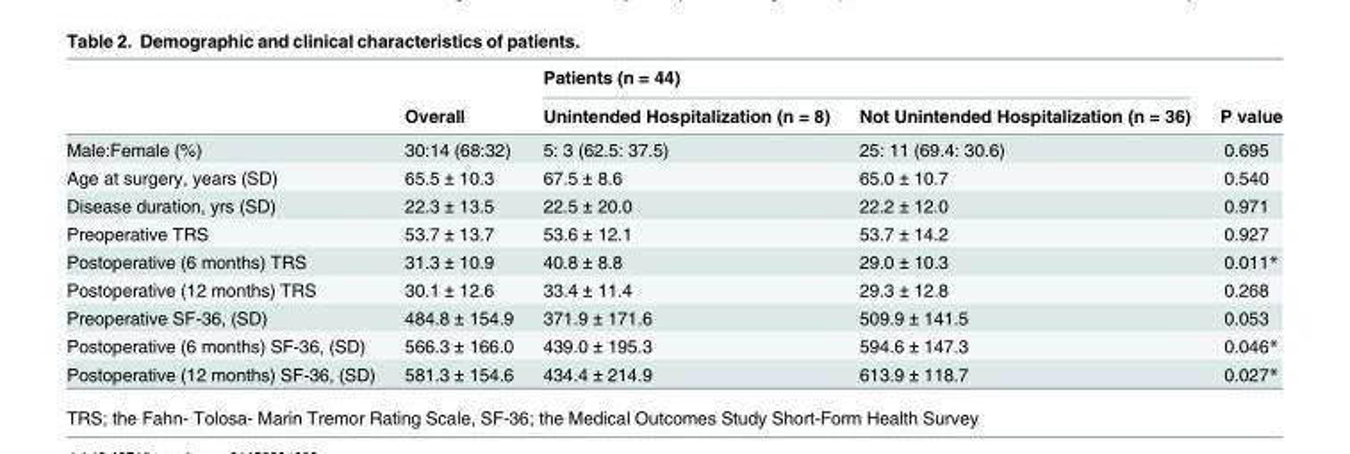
<table><thead><tr><td rowspan="2"></td><td rowspan="2">Overall</td><td colspan="2">Patients (n = 44)</td><td rowspan="2">P value</td></tr><tr><td>Unintended Hospitalization (n = 8)</td><td>Not Unintended Hospitalization (n = 36)</td></tr></thead><tbody><tr><td>Male:Female (%)</td><td>30:14 (68:32)</td><td>5: 3 (62.5: 37.5)</td><td>25: 11 (69.4: 30.6)</td><td>0.695</td></tr><tr><td>Age at surgery, years (SD)</td><td>65.5 ± 10.3</td><td>67.5 ± 8.6</td><td>65.0 ± 10.7</td><td>0.540</td></tr><tr><td>Disease duration, yrs (SD)</td><td>22.3 ± 13.5</td><td>22.5 ± 20.0</td><td>22.2 ± 12.0</td><td>0.971</td></tr><tr><td>Preoperative TRS</td><td>53.7 ± 13.7</td><td>53.6 ± 12.1</td><td>53.7 ± 14.2</td><td>0.927</td></tr><tr><td>Postoperative (6 months) TRS</td><td>31.3 ± 10.9</td><td>40.8 ± 8.8</td><td>29.0 ± 10.3</td><td>0.011*</td></tr><tr><td>Postoperative (12 months) TRS</td><td>30.1 ± 12.6</td><td>33.4 ± 11.4</td><td>29.3 ± 12.8</td><td>0.268</td></tr><tr><td>Preoperative SF-36, (SD)</td><td>484.8 ± 154.9</td><td>371.9 ± 171.6</td><td>509.9 ± 141.5</td><td>0.053</td></tr><tr><td>Postoperative (6 months) SF-36, (SD)</td><td>566.3 ± 166.0</td><td>439.0 ± 195.3</td><td>594.6 ± 147.3</td><td>0.046*</td></tr><tr><td>Postoperative (12 months) SF-36, (SD)</td><td>581.3 ± 154.6</td><td>434.4 ± 214.9</td><td>613.9 ± 118.7</td><td>0.027*</td></tr></tbody></table>